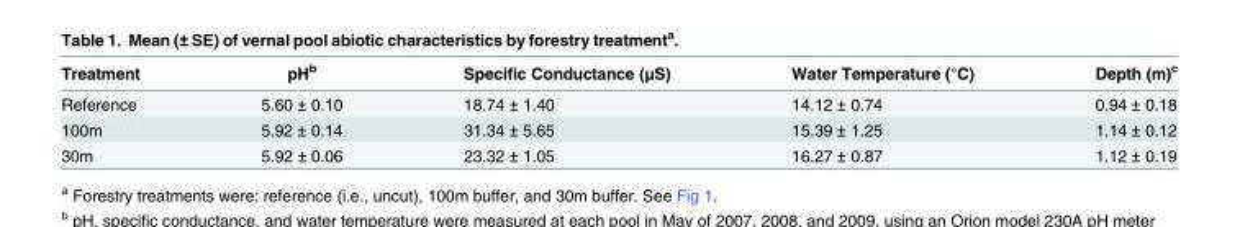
<table><thead><tr><td>Treatment</td><td>pH<sup>b</sup></td><td>Specific Conductance (μS)</td><td>Water Temperature (°C)</td><td>Depth (m)<sup>c</sup></td></tr></thead><tbody><tr><td>Reference</td><td>5.60 ± 0.10</td><td>18.74 ± 1.40</td><td>14.12 ± 0.74</td><td>0.94 ± 0.18</td></tr><tr><td>100m</td><td>5.92 ± 0.14</td><td>31.34 ± 5.65</td><td>15.39 ± 1.25</td><td>1.14 ± 0.12</td></tr><tr><td>30m</td><td>5.92 ± 0.06</td><td>23.32 ± 1.05</td><td>16.27 ± 0.87</td><td>1.12 ± 0.19</td></tr></tbody></table>